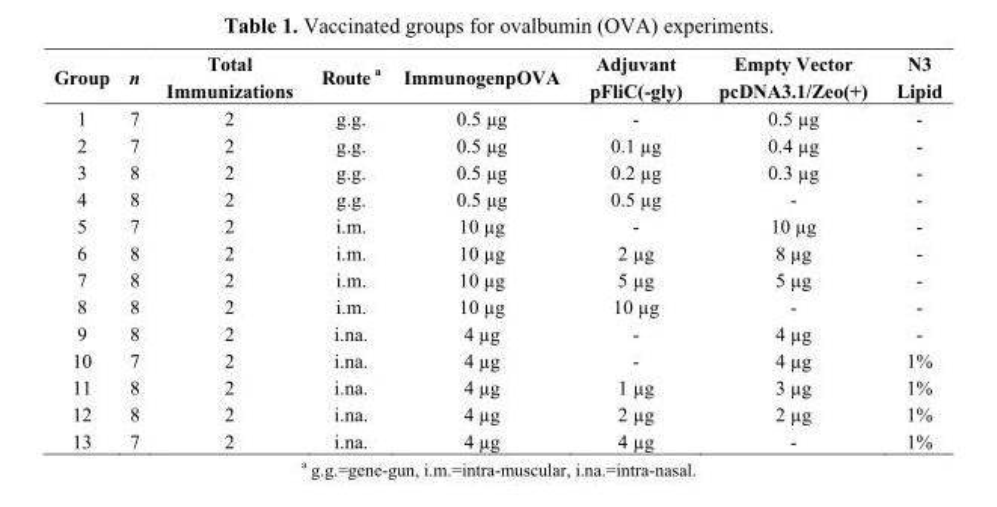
<table><thead><tr><td>Group</td><td>n</td><td>Total Immunizations</td><td>Route <sup>a</sup></td><td>ImmunogenpOVA</td><td>Adjuvant pFliC(-gly)</td><td>Empty Vector pcDNA3.1/Zeo(+)</td><td>N3 Lipid</td></tr></thead><tbody><tr><td>1</td><td>7</td><td>2</td><td>g.g.</td><td>0.5 µg</td><td>-</td><td>0.5 µg</td><td>-</td></tr><tr><td>2</td><td>7</td><td>2</td><td>g.g.</td><td>0.5 µg</td><td>0.1 µg</td><td>0.4 µg</td><td>-</td></tr><tr><td>3</td><td>8</td><td>2</td><td>g.g.</td><td>0.5 µg</td><td>0.2 µg</td><td>0.3 µg</td><td>-</td></tr><tr><td>4</td><td>8</td><td>2</td><td>g.g.</td><td>0.5 µg</td><td>0.5 µg</td><td>-</td><td>-</td></tr><tr><td>5</td><td>7</td><td>2</td><td>i.m.</td><td>10 µg</td><td>-</td><td>10 µg</td><td>-</td></tr><tr><td>6</td><td>8</td><td>2</td><td>i.m.</td><td>10 µg</td><td>2 µg</td><td>8 µg</td><td>-</td></tr><tr><td>7</td><td>8</td><td>2</td><td>i.m.</td><td>10 µg</td><td>5 µg</td><td>5 µg</td><td>-</td></tr><tr><td>8</td><td>8</td><td>2</td><td>i.m.</td><td>10 µg</td><td>10 µg</td><td>-</td><td>-</td></tr><tr><td>9</td><td>8</td><td>2</td><td>i.na.</td><td>4 µg</td><td>-</td><td>4 µg</td><td>-</td></tr><tr><td>10</td><td>7</td><td>2</td><td>i.na.</td><td>4 µg</td><td>-</td><td>4 µg</td><td>1%</td></tr><tr><td>11</td><td>8</td><td>2</td><td>i.na.</td><td>4 µg</td><td>1 µg</td><td>3 µg</td><td>1%</td></tr><tr><td>12</td><td>8</td><td>2</td><td>i.na.</td><td>4 µg</td><td>2 µg</td><td>2 µg</td><td>1%</td></tr><tr><td>13</td><td>7</td><td>2</td><td>i.na.</td><td>4 µg</td><td>4 µg</td><td>-</td><td>1%</td></tr></tbody></table>